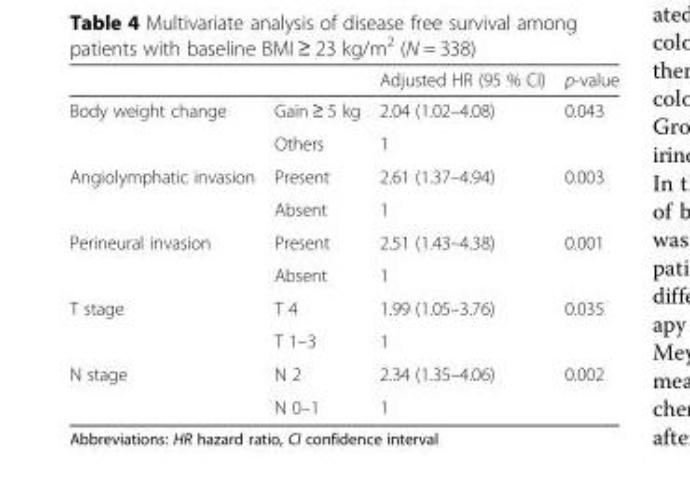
<table><thead><tr><td></td><td></td><td>Adjusted HR (95 % CI)</td><td>p-value</td></tr></thead><tbody><tr><td rowspan="2">Body weight change</td><td>Gain ≥ 5 kg</td><td>2.04 (1.02–4.08)</td><td>0.043</td></tr><tr><td>Others</td><td>1</td><td></td></tr><tr><td rowspan="2">Angiolymphatic invasion</td><td>Present</td><td>2.61 (1.37–4.94)</td><td>0.003</td></tr><tr><td>Absent</td><td>1</td><td></td></tr><tr><td rowspan="2">Perineural invasion</td><td>Present</td><td>2.51 (1.43–4.38)</td><td>0.001</td></tr><tr><td>Absent</td><td>1</td><td></td></tr><tr><td rowspan="2">T stage</td><td>T 4</td><td>1.99 (1.05–3.76)</td><td>0.035</td></tr><tr><td>T 1–3</td><td>1</td><td></td></tr><tr><td rowspan="2">N stage</td><td>N 2</td><td>2.34 (1.35–4.06)</td><td>0.002</td></tr><tr><td>N 0–1</td><td>1</td><td></td></tr></tbody></table>